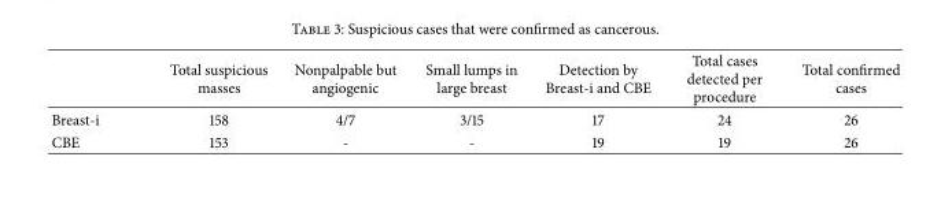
<table><thead><tr><td></td><td>Total suspicious masses</td><td>Nonpalpable but angiogenic</td><td>Small lumps in large breast</td><td>Detection by Breast-i and CBE</td><td>Total cases detected per procedure</td><td>Total confirmed cases</td></tr></thead><tbody><tr><td>Breast-i</td><td>158</td><td>4/7</td><td>3/15</td><td>17</td><td>24</td><td>26</td></tr><tr><td>CBE</td><td>153</td><td>-</td><td>-</td><td>19</td><td>19</td><td>26</td></tr></tbody></table>